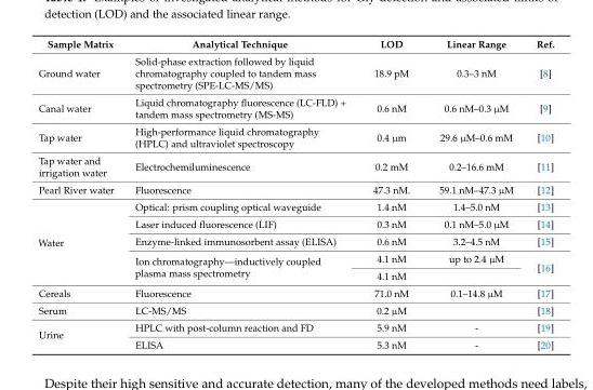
<table><thead><tr><td>Sample Matrix</td><td>Analytical Technique</td><td>LOD</td><td>Linear Range</td><td>Ref.</td></tr></thead><tbody><tr><td>Ground water</td><td>Solid-phase extraction followed by liquid chromatography coupled to tandem mass spectrometry (SPE-LC-MS/MS)</td><td>18.9 pM</td><td>0.3–3 nM</td><td>[8]</td></tr><tr><td>Canal water</td><td>Liquid chromatography fluorescence (LC-FLD) + tandem mass spectrometry (MS-MS)</td><td>0.6 nM</td><td>0.6 nM–0.3 µM</td><td>[9]</td></tr><tr><td>Tap water</td><td>High-performance liquid chromatography (HPLC) and ultraviolet spectroscopy</td><td>0.4 µm</td><td>29.6 µM–0.6 mM</td><td>[10]</td></tr><tr><td>Tap water and irrigation water</td><td>Electrochemiluminescence</td><td>0.2 mM</td><td>0.2–16.6 mM</td><td>[11]</td></tr><tr><td>Pearl River water</td><td>Fluorescence</td><td>47.3 nM.</td><td>59.1 nM–47.3 µM</td><td>[12]</td></tr><tr><td rowspan="5">Water</td><td>Optical: prism coupling optical waveguide</td><td>1.4 nM</td><td>1.4–5.0 nM</td><td>[13]</td></tr><tr><td>Laser induced fluorescence (LIF)</td><td>0.3 nM</td><td>0.1 nM–5.0 µM</td><td>[14]</td></tr><tr><td>Enzyme-linked immunosorbent assay (ELISA)</td><td>0.6 nM</td><td>3.2–4.5 nM</td><td>[15]</td></tr><tr><td rowspan="2">Ion chromatography—inductively coupled plasma mass spectrometry</td><td>4.1 nM</td><td>up to 2.4 µM</td><td rowspan="2">[16]</td></tr><tr><td>4.1 nM</td><td></td></tr><tr><td>Cereals</td><td>Fluorescence</td><td>71.0 nM</td><td>0.1–14.8 µM</td><td>[17]</td></tr><tr><td>Serum</td><td>LC-MS/MS</td><td>0.2 µM</td><td></td><td>[18]</td></tr><tr><td rowspan="2">Urine</td><td>HPLC with post-column reaction and FD</td><td>5.9 nM</td><td>-</td><td>[19]</td></tr><tr><td>ELISA</td><td>5.3 nM</td><td>-</td><td>[20]</td></tr></tbody></table>